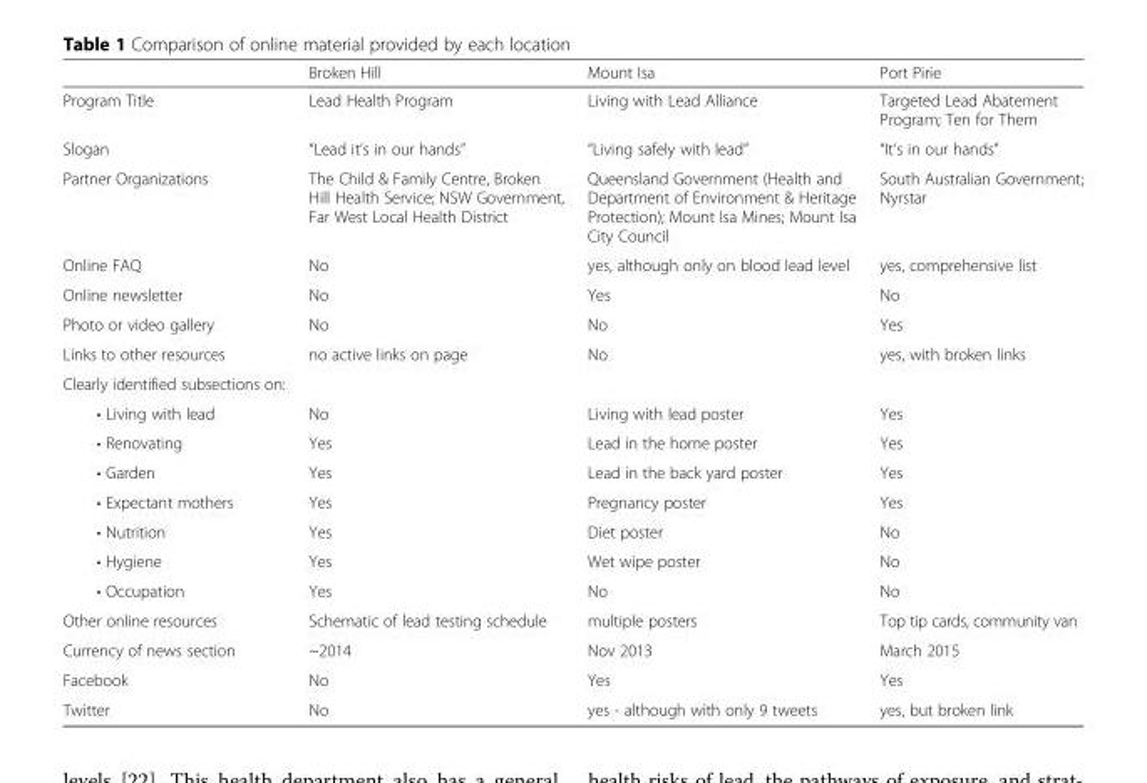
<table><thead><tr><td></td><td>Broken Hill</td><td>Mount Isa</td><td>Port Pirie</td></tr></thead><tbody><tr><td>Program Title</td><td>Lead Health Program</td><td>Living with Lead Alliance</td><td>Targeted Lead Abatement Program; Ten for Them</td></tr><tr><td>Slogan</td><td>“Lead it’s in our hands”</td><td>“Living safely with lead”</td><td>“It’s in our hands”</td></tr><tr><td>Partner Organizations</td><td>The Child &amp; Family Centre, Broken Hill Health Service; NSW Government, Far West Local Health District</td><td>Queensland Government (Health and Department of Environment &amp; Heritage Protection); Mount Isa Mines; Mount Isa City Council</td><td>South Australian Government; Nyrstar</td></tr><tr><td>Online FAQ</td><td>No</td><td>yes, although only on blood lead level</td><td>yes, comprehensive list</td></tr><tr><td>Online newsletter</td><td>No</td><td>Yes</td><td>No</td></tr><tr><td>Photo or video gallery</td><td>No</td><td>No</td><td>Yes</td></tr><tr><td>Links to other resources</td><td>no active links on page</td><td>No</td><td>yes, with broken links</td></tr><tr><td colspan="4">Clearly identified subsections on:</td></tr><tr><td>• Living with lead</td><td>No</td><td>Living with lead poster</td><td>Yes</td></tr><tr><td>• Renovating</td><td>Yes</td><td>Lead in the home poster</td><td>Yes</td></tr><tr><td>• Garden</td><td>Yes</td><td>Lead in the back yard poster</td><td>Yes</td></tr><tr><td>• Expectant mothers</td><td>Yes</td><td>Pregnancy poster</td><td>Yes</td></tr><tr><td>• Nutrition</td><td>Yes</td><td>Diet poster</td><td>No</td></tr><tr><td>• Hygiene</td><td>Yes</td><td>Wet wipe poster</td><td>No</td></tr><tr><td>• Occupation</td><td>Yes</td><td>No</td><td>No</td></tr><tr><td>Other online resources</td><td>Schematic of lead testing schedule</td><td>multiple posters</td><td>Top tip cards, community van</td></tr><tr><td>Currency of news section</td><td>~2014</td><td>Nov 2013</td><td>March 2015</td></tr><tr><td>Facebook</td><td>No</td><td>Yes</td><td>Yes</td></tr><tr><td>Twitter</td><td>No</td><td>yes - although with only 9 tweets</td><td>yes, but broken link</td></tr></tbody></table>